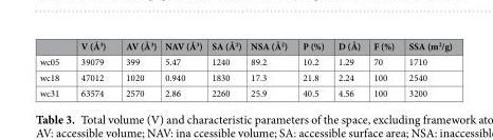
<table><thead><tr><td></td><td>V (Å<sup>3</sup>)</td><td>AV (Å<sup>3</sup>)</td><td>NAV (Å<sup>3</sup>)</td><td>SA (Å<sup>2</sup>)</td><td>NSA (Å<sup>2</sup>)</td><td>P (%)</td><td>D (Å)</td><td>F (%)</td><td>SSA (m<sup>2</sup>/g)</td></tr></thead><tbody><tr><td>wc05</td><td>39079</td><td>399</td><td>5.47</td><td>1240</td><td>89.2</td><td>10.2</td><td>1.29</td><td>70</td><td>1710</td></tr><tr><td>wc18</td><td>47012</td><td>1020</td><td>0.940</td><td>1830</td><td>17.3</td><td>21.8</td><td>2.24</td><td>100</td><td>2540</td></tr><tr><td>wc31</td><td>63574</td><td>2570</td><td>2.86</td><td>2260</td><td>25.9</td><td>40.5</td><td>4.56</td><td>100</td><td>3200</td></tr></tbody></table>